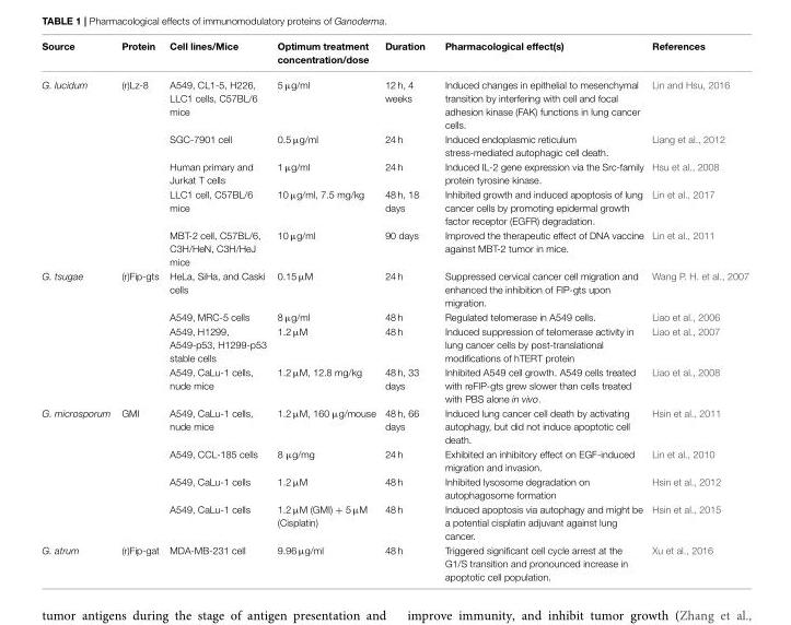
<table><thead><tr><td>Source</td><td>Protein</td><td>Cell lines/Mice</td><td>Optimum treatment concentration/dose</td><td>Duration</td><td>Pharmacological effect(s)</td><td>References</td></tr></thead><tbody><tr><td rowspan="5">G. lucidum</td><td>(r)Lz-8</td><td>A549, CL1-5, H226, LLC1 cells, C57BL/6 mice</td><td>5 µg/ml</td><td>12 h, 4 weeks</td><td>Induced changes in epithelial to mesenchymal transition by interfering with cell and focal adhesion kinase (FAK) functions in lung cancer cells.</td><td>Lin and Hsu, 2016</td></tr><tr><td></td><td>SGC-7901 cell</td><td>0.5 µg/ml</td><td>24 h</td><td>Induced endoplasmic reticulum stress-mediated autophagic cell death.</td><td>Liang et al., 2012</td></tr><tr><td></td><td>Human primary and Jurkat T cells</td><td>1 µg/ml</td><td>24 h</td><td>Induced IL-2 gene expression via the Src-family protein tyrosine kinase.</td><td>Hsu et al., 2008</td></tr><tr><td></td><td>LLC1 cell, C57BL/6 mice</td><td>10 µg/ml, 7.5 mg/kg</td><td>48 h, 18 days</td><td>Inhibited growth and induced apoptosis of lung cancer cells by promoting epidermal growth factor receptor (EGFR) degradation.</td><td>Lin et al., 2017</td></tr><tr><td></td><td>MBT-2 cell, C57BL/6, C3H/HeN, C3H/HeJ mice</td><td>10 µg/ml</td><td>90 days</td><td>Improved the therapeutic effect of DNA vaccine against MBT-2 tumor in mice.</td><td>Lin et al., 2011</td></tr><tr><td rowspan="4">G. tsugae</td><td>(r)Fip-gts</td><td>HeLa, SiHa, and Caski cells</td><td>0.15 µM</td><td>24 h</td><td>Suppressed cervical cancer cell migration and enhanced the inhibition of FIP-gts upon migration.</td><td>Wang P. H. et al., 2007</td></tr><tr><td></td><td>A549, MRC-5 cells</td><td>8 µg/ml</td><td>48 h</td><td>Regulated telomerase in A549 cells.</td><td>Liao et al., 2006</td></tr><tr><td></td><td>A549, H1299, A549-p53, H1299-p53 stable cells</td><td>1.2 µM</td><td>48 h</td><td>Induced suppression of telomerase activity in lung cancer cells by post-translational modifications of hTERT protein</td><td>Liao et al., 2007</td></tr><tr><td></td><td>A549, CaLu-1 cells, nude mice</td><td>1.2 µM, 12.8 mg/kg</td><td>48 h, 33 days</td><td>Inhibited A549 cell growth. A549 cells treated with reFIP-gts grew slower than cells treated with PBS alone in vivo.</td><td>Liao et al., 2008</td></tr><tr><td rowspan="4">G. microsporum</td><td>GMI</td><td>A549, CaLu-1 cells, nude mice</td><td>1.2 µM, 160 µg/mouse</td><td>48 h, 66 days</td><td>Induced lung cancer cell death by activating autophagy, but did not induce apoptotic cell death.</td><td>Hsin et al., 2011</td></tr><tr><td></td><td>A549, CCL-185 cells</td><td>8 µg/mg</td><td>24 h</td><td>Exhibited an inhibitory effect on EGF-induced migration and invasion.</td><td>Lin et al., 2010</td></tr><tr><td></td><td>A549, CaLu-1 cells</td><td>1.2 µM</td><td>48 h</td><td>Inhibited lysosome degradation on autophagosome formation</td><td>Hsin et al., 2012</td></tr><tr><td></td><td>A549, CaLu-1 cells</td><td>1.2 µM (GMI) + 5 µM (Cisplatin)</td><td>48 h</td><td>Induced apoptosis via autophagy and might be a potential cisplatin adjuvant against lung cancer.</td><td>Hsin et al., 2015</td></tr><tr><td>G. atrum</td><td>(r)Fip-gat</td><td>MDA-MB-231 cell</td><td>9.96 µg/ml</td><td>48 h</td><td>Triggered significant cell cycle arrest at the G1/S transition and pronounced increase in apoptotic cell population.</td><td>Xu et al., 2016</td></tr></tbody></table>